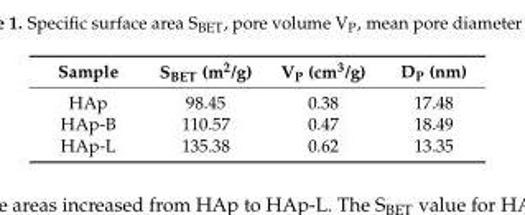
<table><thead><tr><td>Sample</td><td>S<sub>BET</sub> (m<sup>2</sup>/g)</td><td>V<sub>P</sub> (cm<sup>3</sup>/g)</td><td>D<sub>P</sub> (nm)</td></tr></thead><tbody><tr><td>HAp</td><td>98.45</td><td>0.38</td><td>17.48</td></tr><tr><td>HAp-B</td><td>110.57</td><td>0.47</td><td>18.49</td></tr><tr><td>HAp-L</td><td>135.38</td><td>0.62</td><td>13.35</td></tr></tbody></table>